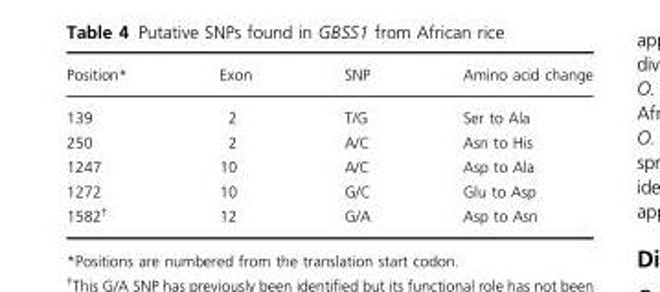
<table><thead><tr><td>Position*</td><td>Exon</td><td>SNP</td><td>Amino acid change</td></tr></thead><tbody><tr><td>139</td><td>2</td><td>T/G</td><td>Ser to Ala</td></tr><tr><td>250</td><td>2</td><td>A/C</td><td>Asn to His</td></tr><tr><td>1247</td><td>10</td><td>A/C</td><td>Asp to Ala</td></tr><tr><td>1272</td><td>10</td><td>G/C</td><td>Glu to Asp</td></tr><tr><td>1582†</td><td>12</td><td>G/A</td><td>Asp to Asn</td></tr></tbody></table>